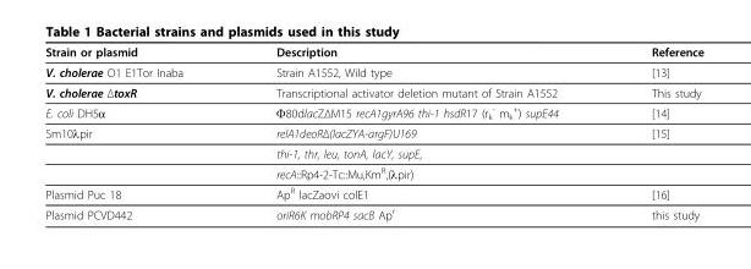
<table><thead><tr><td>Strain or plasmid</td><td>Description</td><td>Reference</td></tr></thead><tbody><tr><td>V. cholerae O1 E1Tor Inaba</td><td>Strain A1552, Wild type</td><td>[13]</td></tr><tr><td>V. cholerae ΔtoxR</td><td>Transcriptional activator deletion mutant of Strain A1552</td><td>This study</td></tr><tr><td>E. coli DH5α</td><td>Φ80dlacZΔM15 recA1gyrA96 thi-1 hsdR17 (r<sub>k</sub> <sup>-</sup> m<sub>k</sub> <sup>+</sup>) supE44</td><td>[14]</td></tr><tr><td rowspan="3">Sm10λpir</td><td>relA1deoRΔ(lacZYA-argF)U169</td><td>[15]</td></tr><tr><td>thi-1, thr, leu, tonA, lacY, supE,</td><td></td></tr><tr><td>recA::Rp4-2-Tc::Mu,Km<sup>R</sup>,(λpir)</td><td></td></tr><tr><td>Plasmid Puc 18</td><td>Ap<sup>R</sup> lacZaovi colE1</td><td>[16]</td></tr><tr><td>Plasmid PCVD442</td><td>oriR6K mobRP4 sacB Ap<sup>r</sup></td><td>this study</td></tr></tbody></table>